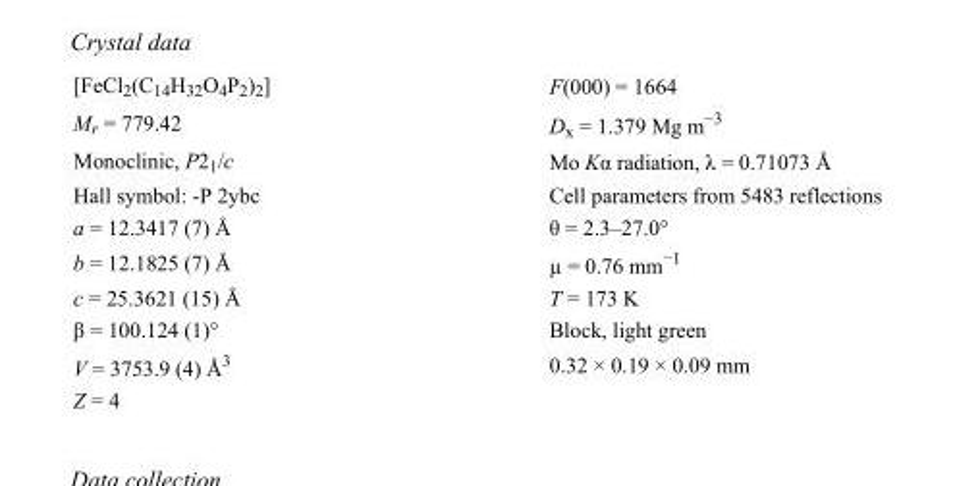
<table><tbody><tr><td>[FeCl<sub>2</sub>(C<sub>14</sub>H<sub>32</sub>O<sub>4</sub>P<sub>2</sub>)<sub>2</sub>]</td><td>F(000) = 1664</td></tr><tr><td>M<sub>r</sub> = 779.42</td><td>D<sub>x</sub> = 1.379 Mg m<sup>−3</sup></td></tr><tr><td>Monoclinic, P2<sub>1</sub>/c</td><td>Mo Kα radiation, λ = 0.71073 Å</td></tr><tr><td>Hall symbol: -P 2ybc</td><td>Cell parameters from 5483 reflections</td></tr><tr><td>a = 12.3417 (7) Å</td><td>θ = 2.3–27.0°</td></tr><tr><td>b = 12.1825 (7) Å</td><td>µ = 0.76 mm<sup>−1</sup></td></tr><tr><td>c = 25.3621 (15) Å</td><td>T = 173 K</td></tr><tr><td>β = 100.124 (1)°</td><td>Block, light green</td></tr><tr><td>V = 3753.9 (4) Å<sup>3</sup></td><td>0.32 × 0.19 × 0.09 mm</td></tr><tr><td>Z = 4</td><td></td></tr></tbody></table>